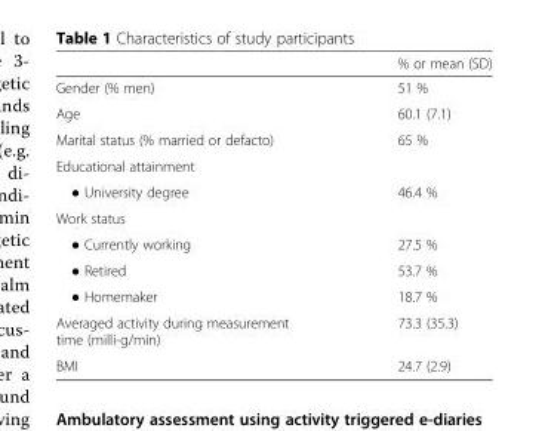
<table><thead><tr><td></td><td>% or mean (SD)</td></tr></thead><tbody><tr><td>Gender (% men)</td><td>51 %</td></tr><tr><td>Age</td><td>60.1 (7.1)</td></tr><tr><td>Marital status (% married or defacto)</td><td>65 %</td></tr><tr><td colspan="2">Educational attainment</td></tr><tr><td>● University degree</td><td>46.4 %</td></tr><tr><td colspan="2">Work status</td></tr><tr><td>● Currently working</td><td>27.5 %</td></tr><tr><td>● Retired</td><td>53.7 %</td></tr><tr><td>● Homemaker</td><td>18.7 %</td></tr><tr><td>Averaged activity during measurement time (milli-g/min)</td><td>73.3 (35.3)</td></tr><tr><td>BMI</td><td>24.7 (2.9)</td></tr></tbody></table>